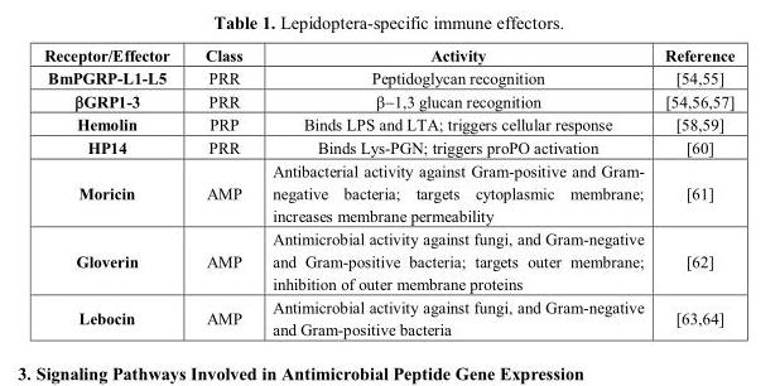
<table><thead><tr><td>Receptor/Effector</td><td>Class</td><td>Activity</td><td>Reference</td></tr></thead><tbody><tr><td>BmPGRP-L1-L5</td><td>PRR</td><td>Peptidoglycan recognition</td><td>[54,55]</td></tr><tr><td>βGRP1-3</td><td>PRR</td><td>β–1,3 glucan recognition</td><td>[54,56,57]</td></tr><tr><td>Hemolin</td><td>PRP</td><td>Binds LPS and LTA; triggers cellular response</td><td>[58,59]</td></tr><tr><td>HP14</td><td>PRR</td><td>Binds Lys-PGN; triggers proPO activation</td><td>[60]</td></tr><tr><td>Moricin</td><td>AMP</td><td>Antibacterial activity against Gram-positive and Gram- negative bacteria; targets cytoplasmic membrane; increases membrane permeability</td><td>[61]</td></tr><tr><td>Gloverin</td><td>AMP</td><td>Antimicrobial activity against fungi, and Gram-negative and Gram-positive bacteria; targets outer membrane; inhibition of outer membrane proteins</td><td>[62]</td></tr><tr><td>Lebocin</td><td>AMP</td><td>Antimicrobial activity against fungi, and Gram-negative and Gram-positive bacteria</td><td>[63,64]</td></tr></tbody></table>